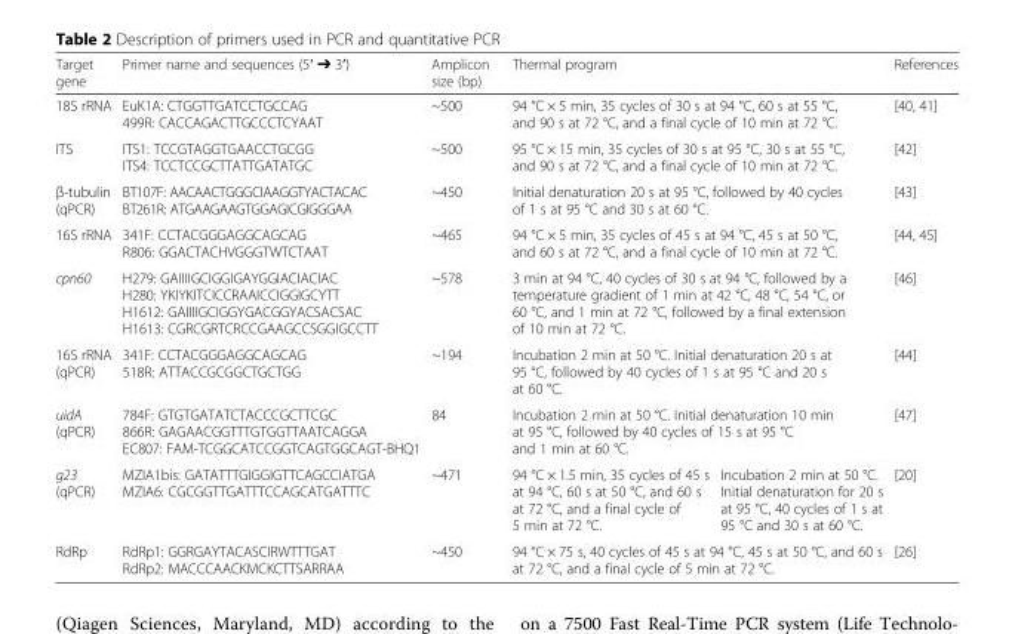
<table><thead><tr><td>Target gene</td><td>Primer name and sequences (5′ ➔ 3′)</td><td>Amplicon size (bp)</td><td colspan="2">Thermal program</td><td>References</td></tr></thead><tbody><tr><td>18S rRNA</td><td>EuK1A: CTGGTTGATCCTGCCAG 499R: CACCAGACTTGCCCTCYAAT</td><td>~500</td><td colspan="2">94 °C × 5 min, 35 cycles of 30 s at 94 °C, 60 s at 55 °C, and 90 s at 72 °C, and a final cycle of 10 min at 72 °C.</td><td>[40, 41]</td></tr><tr><td>ITS</td><td>ITS1: TCCGTAGGTGAACCTGCGG ITS4: TCCTCCGCTTATTGATATGC</td><td>~500</td><td colspan="2">95 °C × 15 min, 35 cycles of 30 s at 95 °C, 30 s at 55 °C, and 90 s at 72 °C, and a final cycle of 10 min at 72 °C.</td><td>[42]</td></tr><tr><td>β-tubulin (qPCR)</td><td>BT107F: AACAACTGGGCIAAGGTYACTACAC BT261R: ATGAAGAAGTGGAGICGIGGGAA</td><td>~450</td><td colspan="2">Initial denaturation 20 s at 95 °C, followed by 40 cycles of 1 s at 95 °C and 30 s at 60 °C.</td><td>[43]</td></tr><tr><td>16S rRNA</td><td>341F: CCTACGGGAGGCAGCAG R806: GGACTACHVGGGTWTCTAAT</td><td>~465</td><td colspan="2">94 °C × 5 min, 35 cycles of 45 s at 94 °C, 45 s at 50 °C, and 60 s at 72 °C, and a final cycle of 10 min at 72 °C.</td><td>[44, 45]</td></tr><tr><td>cpn60</td><td>H279: GAIIIIGCIGGIGAYGGIACIACIAC H280: YKIYKITCICCRAAICCIGGIGCYTT H1612: GAIIIIGCIGGYGACGGYACSACSAC H1613: CGRCGRTCRCCGAAGCCSGGIGCCTT</td><td>~578</td><td colspan="2">3 min at 94 °C, 40 cycles of 30 s at 94 °C, followed by a temperature gradient of 1 min at 42 °C, 48 °C, 54 °C, or 60 °C, and 1 min at 72 °C, followed by a final extension of 10 min at 72 °C.</td><td>[46]</td></tr><tr><td>16S rRNA (qPCR)</td><td>341F: CCTACGGGAGGCAGCAG 518R: ATTACCGCGGCTGCTGG</td><td>~194</td><td colspan="2">Incubation 2 min at 50 °C. Initial denaturation 20 s at 95 °C, followed by 40 cycles of 1 s at 95 °C and 20 s at 60 °C.</td><td>[44]</td></tr><tr><td>uidA (qPCR)</td><td>784F: GTGTGATATCTACCCGCTTCGC 866R: GAGAACGGTTTGTGGTTAATCAGGA EC807: FAM-TCGGCATCCGGTCAGTGGCAGT-BHQ1</td><td>84</td><td colspan="2">Incubation 2 min at 50 °C. Initial denaturation 10 min at 95 °C, followed by 40 cycles of 15 s at 95 °C and 1 min at 60 °C.</td><td>[47]</td></tr><tr><td>g23 (qPCR)</td><td>MZIA1bis: GATATTTGIGGIGTTCAGCCIATGA MZIA6: CGCGGTTGATTTCCAGCATGATTTC</td><td>~471</td><td>94 °C × 1.5 min, 35 cycles of 45 s at 94 °C, 60 s at 50 °C, and 60 s at 72 °C, and a final cycle of 5 min at 72 °C.</td><td>Incubation 2 min at 50 °C. Initial denaturation for 20 s at 95 °C, 40 cycles of 1 s at 95 °C and 30 s at 60 °C.</td><td>[20]</td></tr><tr><td>RdRp</td><td>RdRp1: GGRGAYTACASCIRWTTTGAT RdRp2: MACCCAACKMCKCTTSARRAA</td><td>~450</td><td colspan="2">94 °C × 75 s, 40 cycles of 45 s at 94 °C, 45 s at 50 °C, and 60 s at 72 °C, and a final cycle of 5 min at 72 °C.</td><td>[26]</td></tr></tbody></table>